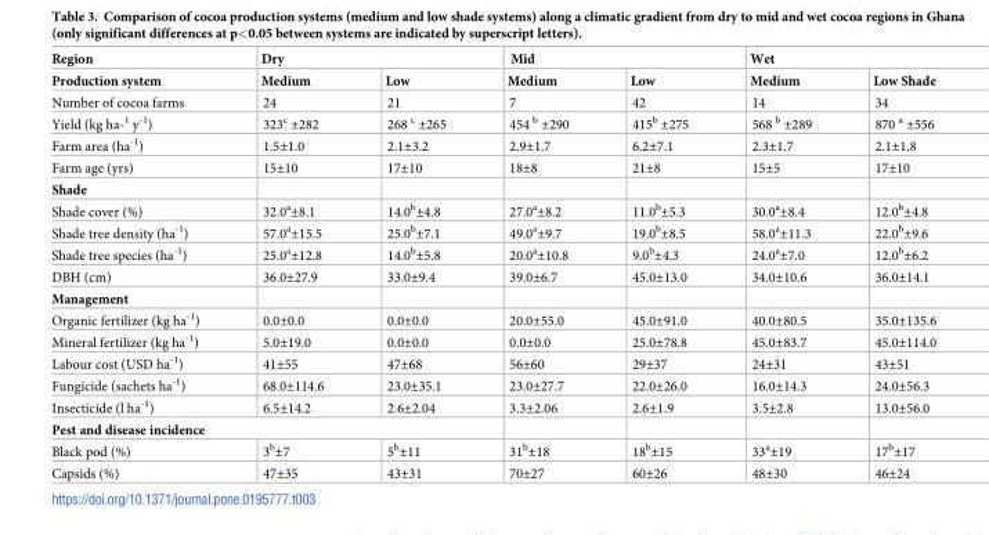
<table><thead><tr><td rowspan="2">Region Production system</td><td colspan="2">Dry</td><td colspan="2">Mid</td><td colspan="2">Wet</td></tr><tr><td>Medium</td><td>Low</td><td>Medium</td><td>Low</td><td>Medium</td><td>Low Shade</td></tr></thead><tbody><tr><td>Number of cocoa farms</td><td>24</td><td>21</td><td>7</td><td>42</td><td>14</td><td>34</td></tr><tr><td>Yield (kg ha-<sup>1</sup> y<sup>-1</sup>)</td><td>323<sup>c</sup> ±282</td><td>268 <sup>c</sup> ±265</td><td>454 <sup>b</sup> ±290</td><td>415<sup>b</sup> ±275</td><td>568 <sup>b</sup> ±289</td><td>870 <sup>a</sup> ±556</td></tr><tr><td>Farm area (ha<sup>-1</sup>)</td><td>1.5±1.0</td><td>2.1±3.2</td><td>2.9±1.7</td><td>6.2±7.1</td><td>2.3±1.7</td><td>2.1±1.8</td></tr><tr><td>Farm age (yrs)</td><td>15±10</td><td>17±10</td><td>18±8</td><td>21±8</td><td>15±5</td><td>17±10</td></tr><tr><td colspan="7">Shade</td></tr><tr><td>Shade cover (%)</td><td>32.0<sup>a</sup>±8.1</td><td>14.0<sup>b</sup>±4.8</td><td>27.0<sup>a</sup>±8.2</td><td>11.0<sup>b</sup>±5.3</td><td>30.0<sup>a</sup>±8.4</td><td>12.0<sup>b</sup>±4.8</td></tr><tr><td>Shade tree density (ha<sup>-1</sup>)</td><td>57.0<sup>a</sup>±15.5</td><td>25.0<sup>b</sup>±7.1</td><td>49.0<sup>a</sup>±9.7</td><td>19.0<sup>b</sup>±8.5</td><td>58.0<sup>a</sup>±11.3</td><td>22.0<sup>b</sup>±9.6</td></tr><tr><td>Shade tree species (ha<sup>-1</sup>)</td><td>25.0<sup>a</sup>±12.8</td><td>14.0<sup>b</sup>±5.8</td><td>20.0<sup>a</sup>±10.8</td><td>9.0<sup>b</sup>±4.3</td><td>24.0<sup>a</sup>±7.0</td><td>12.0<sup>b</sup>±6.2</td></tr><tr><td>DBH (cm)</td><td>36.0±27.9</td><td>33.0±9.4</td><td>39.0±6.7</td><td>45.0±13.0</td><td>34.0±10.6</td><td>36.0±14.1</td></tr><tr><td colspan="7">Management</td></tr><tr><td>Organic fertilizer (kg ha<sup>-1</sup>)</td><td>0.0±0.0</td><td>0.0±0.0</td><td>20.0±55.0</td><td>45.0±91.0</td><td>40.0±80.5</td><td>35.0±135.6</td></tr><tr><td>Mineral fertilizer (kg ha<sup>-1</sup>)</td><td>5.0±19.0</td><td>0.0±0.0</td><td>0.0±0.0</td><td>25.0±78.8</td><td>45.0±83.7</td><td>45.0±114.0</td></tr><tr><td>Labour cost (USD ha<sup>-1</sup>)</td><td>41±55</td><td>47±68</td><td>56±60</td><td>29±37</td><td>24±31</td><td>43±51</td></tr><tr><td>Fungicide (sachets ha<sup>-1</sup>)</td><td>68.0±114.6</td><td>23.0±35.1</td><td>23.0±27.7</td><td>22.0±26.0</td><td>16.0±14.3</td><td>24.0±56.3</td></tr><tr><td>Insecticide (l ha<sup>-1</sup>)</td><td>6.5±14.2</td><td>2.6±2.04</td><td>3.3±2.06</td><td>2.6±1.9</td><td>3.5±2.8</td><td>13.0±56.0</td></tr><tr><td colspan="7">Pest and disease incidence</td></tr><tr><td>Black pod (%)</td><td>3<sup>b</sup>±7</td><td>5<sup>b</sup>±11</td><td>31<sup>b</sup>±18</td><td>18<sup>b</sup>±15</td><td>33<sup>a</sup>±19</td><td>17<sup>b</sup>±17</td></tr><tr><td>Capsids (%)</td><td>47±35</td><td>43±31</td><td>70±27</td><td>60±26</td><td>48±30</td><td>46±24</td></tr></tbody></table>